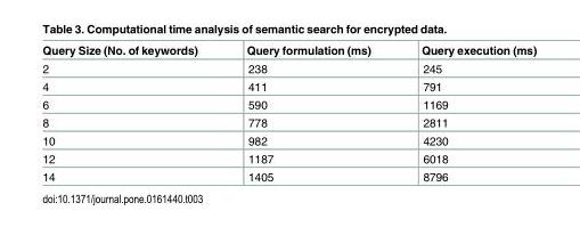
<table><thead><tr><td>Query Size (No. of keywords)</td><td>Query formulation (ms)</td><td>Query execution (ms)</td></tr></thead><tbody><tr><td>2</td><td>238</td><td>245</td></tr><tr><td>4</td><td>411</td><td>791</td></tr><tr><td>6</td><td>590</td><td>1169</td></tr><tr><td>8</td><td>778</td><td>2811</td></tr><tr><td>10</td><td>982</td><td>4230</td></tr><tr><td>12</td><td>1187</td><td>6018</td></tr><tr><td>14</td><td>1405</td><td>8796</td></tr></tbody></table>